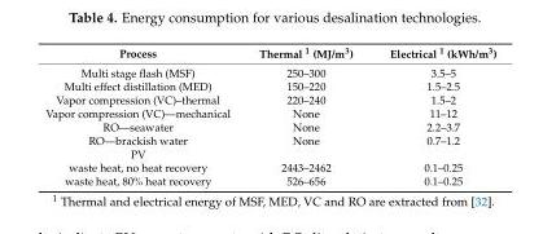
<table><thead><tr><td>Process</td><td>Thermal <sup>1</sup> (MJ/m<sup>3</sup>)</td><td>Electrical <sup>1</sup> (kWh/m<sup>3</sup>)</td></tr></thead><tbody><tr><td>Multi stage flash (MSF)</td><td>250–300</td><td>3.5–5</td></tr><tr><td>Multi effect distillation (MED)</td><td>150–220</td><td>1.5–2.5</td></tr><tr><td>Vapor compression (VC)–thermal</td><td>220–240</td><td>1.5–2</td></tr><tr><td>Vapor compression (VC)—mechanical</td><td>None</td><td>11–12</td></tr><tr><td>RO—seawater</td><td>None</td><td>2.2–3.7</td></tr><tr><td>RO—brackish water</td><td>None</td><td>0.7–1.2</td></tr><tr><td colspan="3">PV</td></tr><tr><td>waste heat, no heat recovery</td><td>2443–2462</td><td>0.1–0.25</td></tr><tr><td>waste heat, 80% heat recovery</td><td>526–656</td><td>0.1–0.25</td></tr></tbody></table>